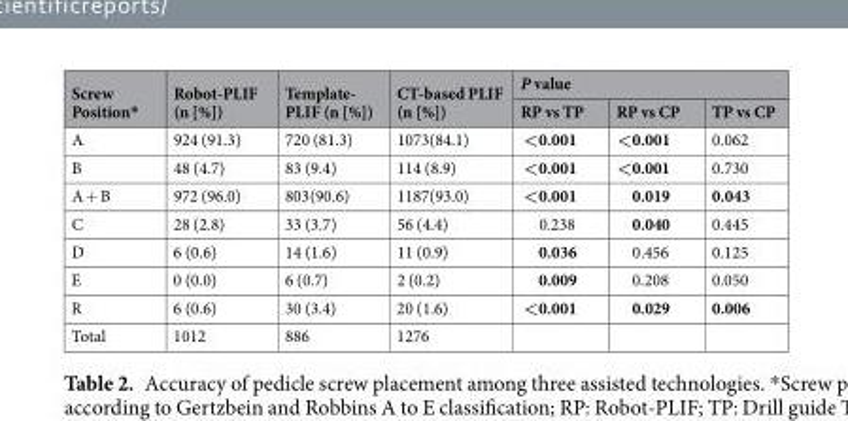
<table><thead><tr><td rowspan="2">Screw Position*</td><td rowspan="2">Robot-PLIF (n [%])</td><td rowspan="2">Template- PLIF (n [%])</td><td rowspan="2">CT-based PLIF (n [%])</td><td colspan="3">P value</td></tr><tr><td>RP vs TP</td><td>RP vs CP</td><td>TP vs CP</td></tr></thead><tbody><tr><td>A</td><td>924 (91.3)</td><td>720 (81.3)</td><td>1073(84.1)</td><td>&lt;0.001</td><td>&lt;0.001</td><td>0.062</td></tr><tr><td>B</td><td>48 (4.7)</td><td>83 (9.4)</td><td>114 (8.9)</td><td>&lt;0.001</td><td>&lt;0.001</td><td>0.730</td></tr><tr><td>A + B</td><td>972 (96.0)</td><td>803(90.6)</td><td>1187(93.0)</td><td>&lt;0.001</td><td>0.019</td><td>0.043</td></tr><tr><td>C</td><td>28 (2.8)</td><td>33 (3.7)</td><td>56 (4.4)</td><td>0.238</td><td>0.040</td><td>0.445</td></tr><tr><td>D</td><td>6 (0.6)</td><td>14 (1.6)</td><td>11 (0.9)</td><td>0.036</td><td>0.456</td><td>0.125</td></tr><tr><td>E</td><td>0 (0.0)</td><td>6 (0.7)</td><td>2 (0.2)</td><td>0.009</td><td>0.208</td><td>0.050</td></tr><tr><td>R</td><td>6 (0.6)</td><td>30 (3.4)</td><td>20 (1.6)</td><td>&lt;0.001</td><td>0.029</td><td>0.006</td></tr><tr><td>Total</td><td>1012</td><td>886</td><td>1276</td><td></td><td></td><td></td></tr></tbody></table>